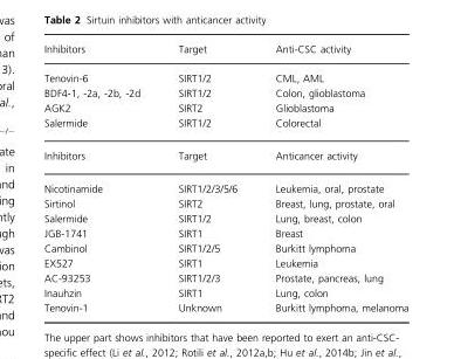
<table><thead><tr><td>Inhibitors</td><td>Target</td><td>Anti-CSC activity</td></tr></thead><tbody><tr><td>Tenovin-6</td><td>SIRT1/2</td><td>CML, AML</td></tr><tr><td>BDF4-1, -2a, -2b, -2d</td><td>SIRT1/2</td><td>Colon, glioblastoma</td></tr><tr><td>AGK2</td><td>SIRT2</td><td>Glioblastoma</td></tr><tr><td>Salermide</td><td>SIRT1/2</td><td>Colorectal</td></tr><tr><td>Inhibitors</td><td>Target</td><td>Anticancer activity</td></tr><tr><td>Nicotinamide</td><td>SIRT1/2/3/5/6</td><td>Leukemia, oral, prostate</td></tr><tr><td>Sirtinol</td><td>SIRT2</td><td>Breast, lung, prostate, oral</td></tr><tr><td>Salermide</td><td>SIRT1/2</td><td>Lung, breast, colon</td></tr><tr><td>JGB-1741</td><td>SIRT1</td><td>Breast</td></tr><tr><td>Cambinol</td><td>SIRT1/2/5</td><td>Burkitt lymphoma</td></tr><tr><td>EX527</td><td>SIRT1</td><td>Leukemia</td></tr><tr><td>AC-93253</td><td>SIRT1/2/3</td><td>Prostate, pancreas, lung</td></tr><tr><td>Inauhzin</td><td>SIRT1</td><td>Lung, colon</td></tr><tr><td>Tenovin-1</td><td>Unknown</td><td>Burkitt lymphoma, melanoma</td></tr></tbody></table>